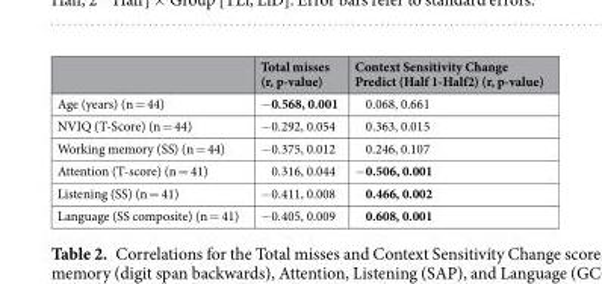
<table><thead><tr><td></td><td>Total misses (r, p-value)</td><td>Context Sensitivity Change Predict (Half 1-Half2) (r, p-value)</td></tr></thead><tbody><tr><td>Age (years) (n = 44)</td><td>−0.568, 0.001</td><td>0.068, 0.661</td></tr><tr><td>NVIQ (T-Score) (n = 44)</td><td>−0.292, 0.054</td><td>0.363, 0.015</td></tr><tr><td>Working memory (SS) (n = 44)</td><td>−0.375, 0.012</td><td>0.246, 0.107</td></tr><tr><td>Attention (T-score) (n = 41)</td><td>0.316, 0.044</td><td>−0.506, 0.001</td></tr><tr><td>Listening (SS) (n = 41)</td><td>−0.411, 0.008</td><td>0.466, 0.002</td></tr><tr><td>Language (SS composite) (n = 41)</td><td>−0.405, 0.009</td><td>0.608, 0.001</td></tr></tbody></table>